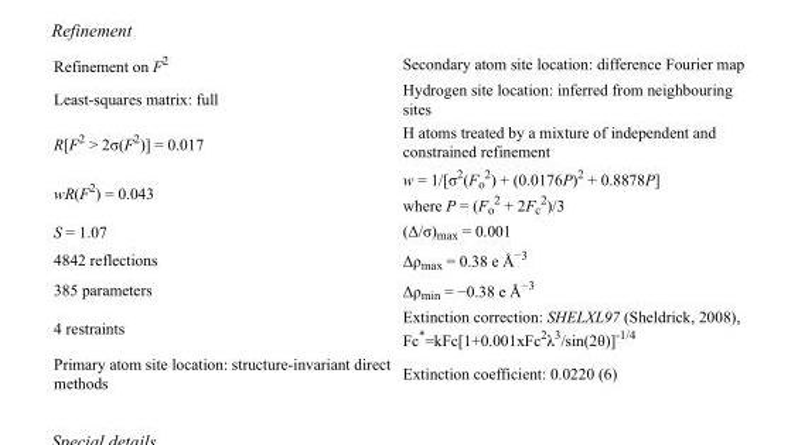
<table><tbody><tr><td>Refinement on F<sup>2</sup></td><td>Secondary atom site location: difference Fourier map</td></tr><tr><td>Least-squares matrix: full</td><td>Hydrogen site location: inferred from neighbouring sites</td></tr><tr><td>R[F<sup>2</sup> &gt; 2σ(F<sup>2</sup>)] = 0.017</td><td>H atoms treated by a mixture of independent and constrained refinement</td></tr><tr><td>wR(F<sup>2</sup>) = 0.043</td><td>w = 1/[σ<sup>2</sup>(F<sub>o</sub> <sup>2</sup>) + (0.0176P)<sup>2</sup> + 0.8878P] where P = (F<sub>o</sub> <sup>2</sup> + 2F<sub>c</sub> <sup>2</sup>)/3</td></tr><tr><td>S = 1.07</td><td>(Δ/σ)<sub>max</sub> = 0.001</td></tr><tr><td>4842 reflections</td><td>Δρ<sub>max</sub> = 0.38 e Å<sup>−3</sup></td></tr><tr><td>385 parameters</td><td>Δρ<sub>min</sub> = −0.38 e Å<sup>−3</sup></td></tr><tr><td>4 restraints</td><td>Extinction correction: SHELXL97 (Sheldrick, 2008), Fc*=kFc[1+0.001xFc<sup>2</sup>λ<sup>3</sup>/sin(2θ)]<sup>-1/4</sup></td></tr><tr><td>Primary atom site location: structure-invariant direct methods</td><td>Extinction coefficient: 0.0220 (6)</td></tr></tbody></table>